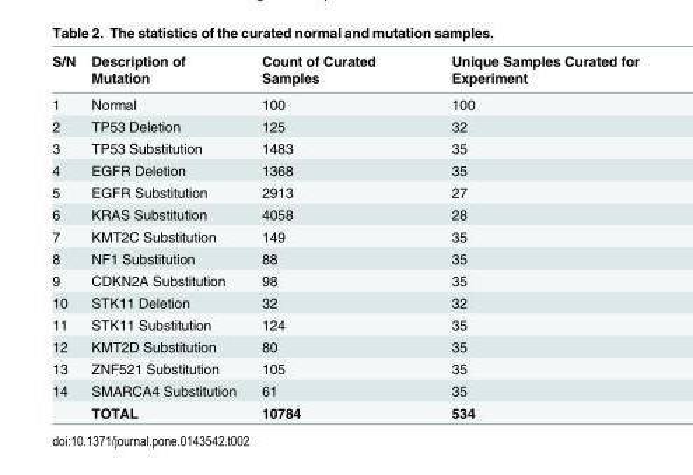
<table><thead><tr><td>S/N</td><td>Description of Mutation</td><td>Count of Curated Samples</td><td>Unique Samples Curated for Experiment</td></tr></thead><tbody><tr><td>1</td><td>Normal</td><td>100</td><td>100</td></tr><tr><td>2</td><td>TP53 Deletion</td><td>125</td><td>32</td></tr><tr><td>3</td><td>TP53 Substitution</td><td>1483</td><td>35</td></tr><tr><td>4</td><td>EGFR Deletion</td><td>1368</td><td>35</td></tr><tr><td>5</td><td>EGFR Substitution</td><td>2913</td><td>27</td></tr><tr><td>6</td><td>KRAS Substitution</td><td>4058</td><td>28</td></tr><tr><td>7</td><td>KMT2C Substitution</td><td>149</td><td>35</td></tr><tr><td>8</td><td>NF1 Substitution</td><td>88</td><td>35</td></tr><tr><td>9</td><td>CDKN2A Substitution</td><td>98</td><td>35</td></tr><tr><td>10</td><td>STK11 Deletion</td><td>32</td><td>32</td></tr><tr><td>11</td><td>STK11 Substitution</td><td>124</td><td>35</td></tr><tr><td>12</td><td>KMT2D Substitution</td><td>80</td><td>35</td></tr><tr><td>13</td><td>ZNF521 Substitution</td><td>105</td><td>35</td></tr><tr><td rowspan="2">14</td><td>SMARCA4 Substitution</td><td>61</td><td>35</td></tr><tr><td>TOTAL</td><td>10784</td><td>534</td></tr></tbody></table>